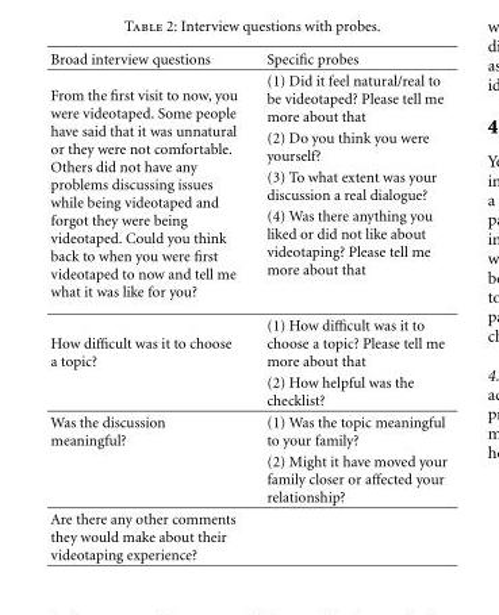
<table><thead><tr><td>Broad interview questions</td><td>Specific probes</td></tr></thead><tbody><tr><td rowspan="4">From the first visit to now, you were videotaped. Some people have said that it was unnatural or they were not comfortable. Others did not have any problems discussing issues while being videotaped and forgot they were being videotaped. Could you think back to when you were first videotaped to now and tell me what it was like for you?</td><td>(1) Did it feel natural/real to be videotaped? Please tell me more about that</td></tr><tr><td>(2) Do you think you were yourself?</td></tr><tr><td>(3) To what extent was your discussion a real dialogue?</td></tr><tr><td>(4) Was there anything you liked or did not like about videotaping? Please tell me more about that</td></tr><tr><td rowspan="2">How difficult was it to choose a topic?</td><td>(1) How difficult was it to choose a topic? Please tell me more about that</td></tr><tr><td>(2) How helpful was the checklist?</td></tr><tr><td rowspan="2">Was the discussion meaningful?</td><td>(1) Was the topic meaningful to your family?</td></tr><tr><td>(2) Might it have moved your family closer or affected your relationship?</td></tr><tr><td>Are there any other comments they would make about their videotaping experience?</td><td></td></tr></tbody></table>